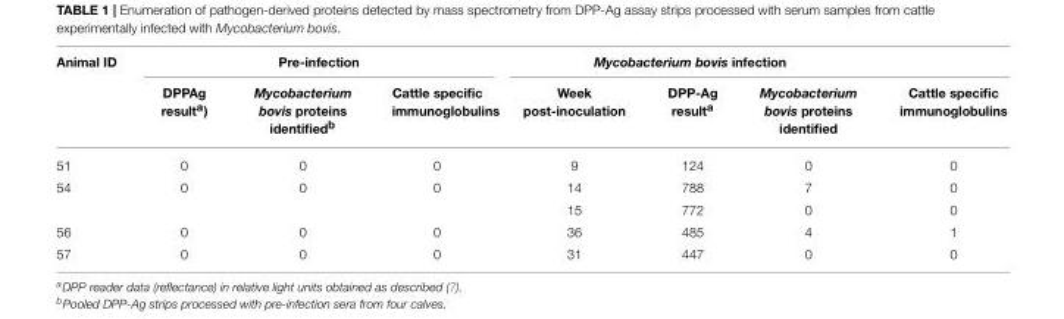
<table><thead><tr><td rowspan="2">Animal ID</td><td colspan="3">Pre-infection</td><td colspan="3">Mycobacterium bovis infection</td><td rowspan="2">Cattle specific immunoglobulins</td></tr><tr><td>DPPAg result<sup>a</sup>)</td><td>Mycobacterium bovis proteins identified<sup>b</sup></td><td>Cattle specific immunoglobulins</td><td>Week post-inoculation</td><td>DPP-Ag result<sup>a</sup></td><td>Mycobacterium bovis proteins identified</td></tr></thead><tbody><tr><td>51</td><td>0</td><td>0</td><td>0</td><td>9</td><td>124</td><td>0</td><td>0</td></tr><tr><td rowspan="2">54</td><td>0</td><td>0</td><td>0</td><td>14</td><td>788</td><td>7</td><td>0</td></tr><tr><td></td><td></td><td></td><td>15</td><td>772</td><td>0</td><td>0</td></tr><tr><td>56</td><td>0</td><td>0</td><td>0</td><td>36</td><td>485</td><td>4</td><td>1</td></tr><tr><td>57</td><td>0</td><td>0</td><td>0</td><td>31</td><td>447</td><td>0</td><td>0</td></tr></tbody></table>